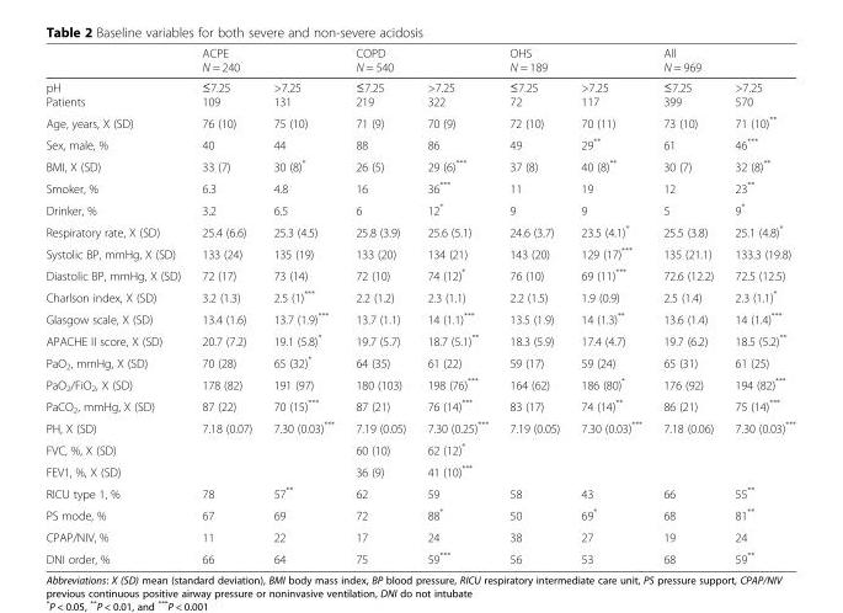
<table><thead><tr><td rowspan="2">pH Patients</td><td colspan="2">ACPE N = 240</td><td colspan="2">COPD N = 540</td><td colspan="2">OHS N = 189</td><td colspan="2">All N = 969</td></tr><tr><td>≤7.25 109</td><td>&gt;7.25 131</td><td>≤7.25 219</td><td>&gt;7.25 322</td><td>≤7.25 72</td><td>&gt;7.25 117</td><td>≤7.25 399</td><td>&gt;7.25 570</td></tr></thead><tbody><tr><td>Age, years, X (SD)</td><td>76 (10)</td><td>75 (10)</td><td>71 (9)</td><td>70 (9)</td><td>72 (10)</td><td>70 (11)</td><td>73 (10)</td><td>71 (10)**</td></tr><tr><td>Sex, male, %</td><td>40</td><td>44</td><td>88</td><td>86</td><td>49</td><td>29**</td><td>61</td><td>46***</td></tr><tr><td>BMI, X (SD)</td><td>33 (7)</td><td>30 (8)*</td><td>26 (5)</td><td>29 (6)***</td><td>37 (8)</td><td>40 (8)**</td><td>30 (7)</td><td>32 (8)**</td></tr><tr><td>Smoker, %</td><td>6.3</td><td>4.8</td><td>16</td><td>36***</td><td>11</td><td>19</td><td>12</td><td>23**</td></tr><tr><td>Drinker, %</td><td>3.2</td><td>6.5</td><td>6</td><td>12*</td><td>9</td><td>9</td><td>5</td><td>9*</td></tr><tr><td>Respiratory rate, X (SD)</td><td>25.4 (6.6)</td><td>25.3 (4.5)</td><td>25.8 (3.9)</td><td>25.6 (5.1)</td><td>24.6 (3.7)</td><td>23.5 (4.1)*</td><td>25.5 (3.8)</td><td>25.1 (4.8)*</td></tr><tr><td>Systolic BP, mmHg, X (SD)</td><td>133 (24)</td><td>135 (19)</td><td>133 (20)</td><td>134 (21)</td><td>143 (20)</td><td>129 (17)***</td><td>135 (21.1)</td><td>133.3 (19.8)</td></tr><tr><td>Diastolic BP, mmHg, X (SD)</td><td>72 (17)</td><td>73 (14)</td><td>72 (10)</td><td>74 (12)*</td><td>76 (10)</td><td>69 (11)***</td><td>72.6 (12.2)</td><td>72.5 (12.5)</td></tr><tr><td>Charlson index, X (SD)</td><td>3.2 (1.3)</td><td>2.5 (1)***</td><td>2.2 (1.2)</td><td>2.3 (1.1)</td><td>2.2 (1.5)</td><td>1.9 (0.9)</td><td>2.5 (1.4)</td><td>2.3 (1.1)*</td></tr><tr><td>Glasgow scale, X (SD)</td><td>13.4 (1.6)</td><td>13.7 (1.9)***</td><td>13.7 (1.1)</td><td>14 (1.1)***</td><td>13.5 (1.9)</td><td>14 (1.3)**</td><td>13.6 (1.4)</td><td>14 (1.4)***</td></tr><tr><td>APACHE II score, X (SD)</td><td>20.7 (7.2)</td><td>19.1 (5.8)*</td><td>19.7 (5.7)</td><td>18.7 (5.1)**</td><td>18.3 (5.9)</td><td>17.4 (4.7)</td><td>19.7 (6.2)</td><td>18.5 (5.2)**</td></tr><tr><td>PaO<sub>2</sub>, mmHg, X (SD)</td><td>70 (28)</td><td>65 (32)*</td><td>64 (35)</td><td>61 (22)</td><td>59 (17)</td><td>59 (24)</td><td>65 (31)</td><td>61 (25)</td></tr><tr><td>PaO<sub>2</sub>/FiO<sub>2</sub>, X (SD)</td><td>178 (82)</td><td>191 (97)</td><td>180 (103)</td><td>198 (76)***</td><td>164 (62)</td><td>186 (80)*</td><td>176 (92)</td><td>194 (82)***</td></tr><tr><td>PaCO<sub>2</sub>, mmHg, X (SD)</td><td>87 (22)</td><td>70 (15)***</td><td>87 (21)</td><td>76 (14)***</td><td>83 (17)</td><td>74 (14)**</td><td>86 (21)</td><td>75 (14)***</td></tr><tr><td>PH, X (SD)</td><td>7.18 (0.07)</td><td>7.30 (0.03)***</td><td>7.19 (0.05)</td><td>7.30 (0.25)***</td><td>7.19 (0.05)</td><td>7.30 (0.03)***</td><td>7.18 (0.06)</td><td>7.30 (0.03)***</td></tr><tr><td>FVC, %, X (SD)</td><td></td><td></td><td>60 (10)</td><td>62 (12)*</td><td></td><td></td><td></td><td></td></tr><tr><td>FEV1, %, X (SD)</td><td></td><td></td><td>36 (9)</td><td>41 (10)***</td><td></td><td></td><td></td><td></td></tr><tr><td>RICU type 1, %</td><td>78</td><td>57**</td><td>62</td><td>59</td><td>58</td><td>43</td><td>66</td><td>55**</td></tr><tr><td>PS mode, %</td><td>67</td><td>69</td><td>72</td><td>88*</td><td>50</td><td>69*</td><td>68</td><td>81**</td></tr><tr><td>CPAP/NIV, %</td><td>11</td><td>22</td><td>17</td><td>24</td><td>38</td><td>27</td><td>19</td><td>24</td></tr><tr><td>DNI order, %</td><td>66</td><td>64</td><td>75</td><td>59***</td><td>56</td><td>53</td><td>68</td><td>59**</td></tr></tbody></table>